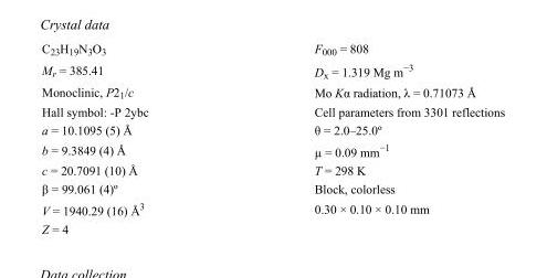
<table><tbody><tr><td>C<sub>23</sub>H<sub>19</sub>N<sub>3</sub>O<sub>3</sub></td><td>F000 = 808</td></tr><tr><td>M<sub>r</sub> = 385.41</td><td>D<sub>x</sub> = 1.319 Mg m<sup>−3</sup></td></tr><tr><td>Monoclinic, P2<sub>1</sub>/c</td><td>Mo Kα radiation, λ = 0.71073 Å</td></tr><tr><td>Hall symbol: -P 2ybc</td><td>Cell parameters from 3301 reflections</td></tr><tr><td>a = 10.1095 (5) Å</td><td>θ = 2.0–25.0º</td></tr><tr><td>b = 9.3849 (4) Å</td><td>µ = 0.09 mm<sup>−1</sup></td></tr><tr><td>c = 20.7091 (10) Å</td><td>T = 298 K</td></tr><tr><td>β = 99.061 (4)º</td><td>Block, colorless</td></tr><tr><td>V = 1940.29 (16) Å<sup>3</sup></td><td>0.30 × 0.10 × 0.10 mm</td></tr><tr><td>Z = 4</td><td></td></tr></tbody></table>